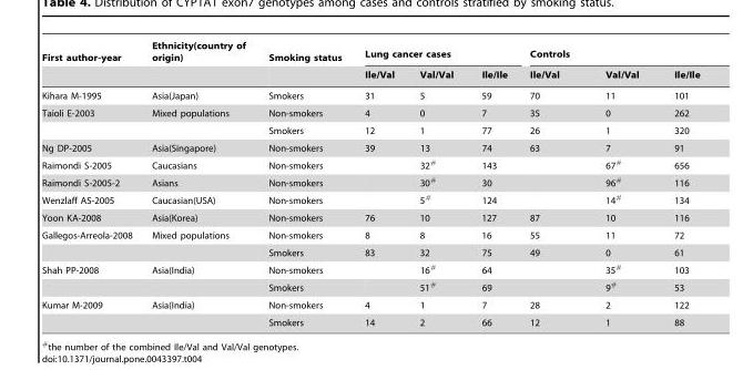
<table><thead><tr><td rowspan="2">First author-year</td><td rowspan="2">Ethnicity(country of origin)</td><td rowspan="2">Smoking status</td><td colspan="3">Lung cancer cases</td><td colspan="3">Controls</td></tr><tr><td>Ile/Val</td><td>Val/Val</td><td>Ile/Ile</td><td>Ile/Val</td><td>Val/Val</td><td>Ile/Ile</td></tr></thead><tbody><tr><td>Kihara M-1995</td><td>Asia(Japan)</td><td>Smokers</td><td>31</td><td>5</td><td>59</td><td>70</td><td>11</td><td>101</td></tr><tr><td rowspan="2">Taioli E-2003</td><td>Mixed populations</td><td>Non-smokers</td><td>4</td><td>0</td><td>7</td><td>35</td><td>0</td><td>262</td></tr><tr><td></td><td>Smokers</td><td>12</td><td>1</td><td>77</td><td>26</td><td>1</td><td>320</td></tr><tr><td>Ng DP-2005</td><td>Asia(Singapore)</td><td>Non-smokers</td><td>39</td><td>13</td><td>74</td><td>63</td><td>7</td><td>91</td></tr><tr><td>Raimondi S-2005</td><td>Caucasians</td><td>Non-smokers</td><td></td><td>32#</td><td>143</td><td></td><td>67#</td><td>656</td></tr><tr><td>Raimondi S-2005-2</td><td>Asians</td><td>Non-smokers</td><td></td><td>30#</td><td>30</td><td></td><td>96#</td><td>116</td></tr><tr><td>Wenzlaff AS-2005</td><td>Caucasian(USA)</td><td>Non-smokers</td><td></td><td>5#</td><td>124</td><td></td><td>14#</td><td>134</td></tr><tr><td>Yoon KA-2008</td><td>Asia(Korea)</td><td>Non-smokers</td><td>76</td><td>10</td><td>127</td><td>87</td><td>10</td><td>116</td></tr><tr><td rowspan="2">Gallegos-Arreola-2008</td><td>Mixed populations</td><td>Non-smokers</td><td>8</td><td>8</td><td>16</td><td>55</td><td>11</td><td>72</td></tr><tr><td></td><td>Smokers</td><td>83</td><td>32</td><td>75</td><td>49</td><td>0</td><td>61</td></tr><tr><td rowspan="2">Shah PP-2008</td><td>Asia(India)</td><td>Non-smokers</td><td></td><td>16#</td><td>64</td><td></td><td>35#</td><td>103</td></tr><tr><td></td><td>Smokers</td><td></td><td>51#</td><td>69</td><td></td><td>9#</td><td>53</td></tr><tr><td rowspan="2">Kumar M-2009</td><td>Asia(India)</td><td>Non-smokers</td><td>4</td><td>1</td><td>7</td><td>28</td><td>2</td><td>122</td></tr><tr><td></td><td>Smokers</td><td>14</td><td>2</td><td>66</td><td>12</td><td>1</td><td>88</td></tr></tbody></table>